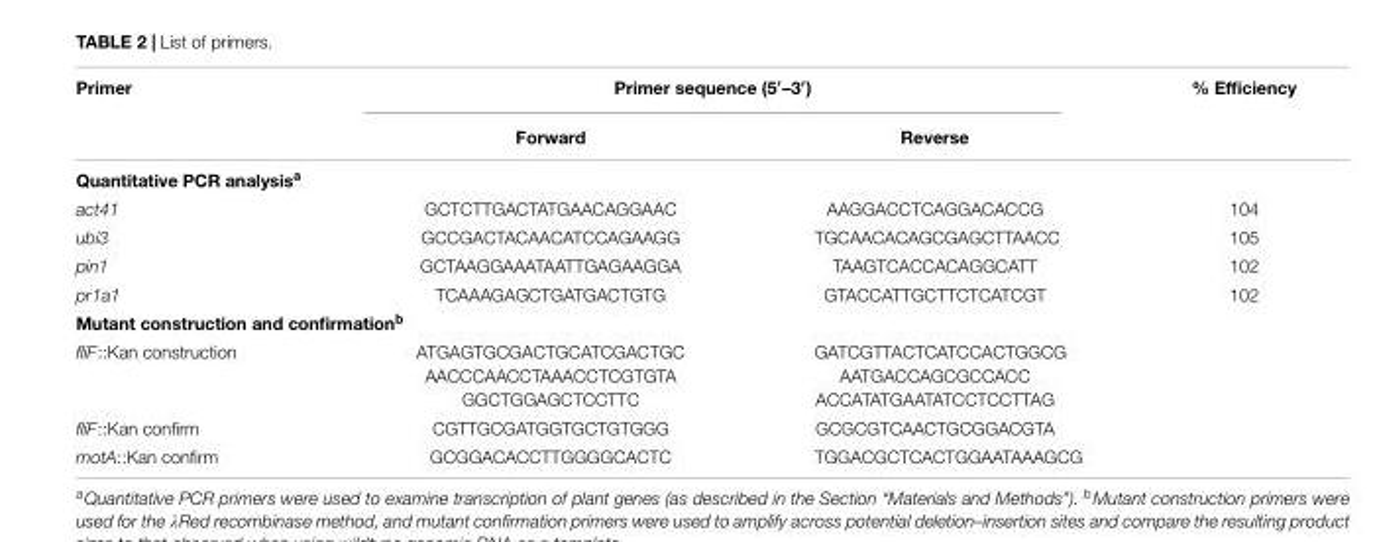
<table><thead><tr><td rowspan="2">Primer</td><td colspan="2">Primer sequence (5′–3′)</td><td rowspan="2">% Efficiency</td></tr><tr><td>Forward</td><td>Reverse</td></tr></thead><tbody><tr><td colspan="4">Quantitative PCR analysis<sup>a</sup></td></tr><tr><td>act41</td><td>GCTCTTGACTATGAACAGGAAC</td><td>AAGGACCTCAGGACACCG</td><td>104</td></tr><tr><td>ubi3</td><td>GCCGACTACAACATCCAGAAGG</td><td>TGCAACACAGCGAGCTTAACC</td><td>105</td></tr><tr><td>pin1</td><td>GCTAAGGAAATAATTGAGAAGGA</td><td>TAAGTCACCACAGGCATT</td><td>102</td></tr><tr><td>pr1a1</td><td>TCAAAGAGCTGATGACTGTG</td><td>GTACCATTGCTTCTCATCGT</td><td>102</td></tr><tr><td colspan="4">Mutant construction and confirmation<sup>b</sup></td></tr><tr><td>fliF::Kan construction</td><td>ATGAGTGCGACTGCATCGACTGC AACCCAACCTAAACCTCGTGTA GGCTGGAGCTCCTTC</td><td>GATCGTTACTCATCCACTGGCG AATGACCAGCGCCACC ACCATATGAATATCCTCCTTAG</td><td></td></tr><tr><td>fliF::Kan confirm</td><td>CGTTGCGATGGTGCTGTGGG</td><td>GCGCGTCAACTGCGGACGTA</td><td></td></tr><tr><td>motA::Kan confirm</td><td>GCGGACACCTTGGGGCACTC</td><td>TGGACGCTCACTGGAATAAAGCG</td><td></td></tr></tbody></table>